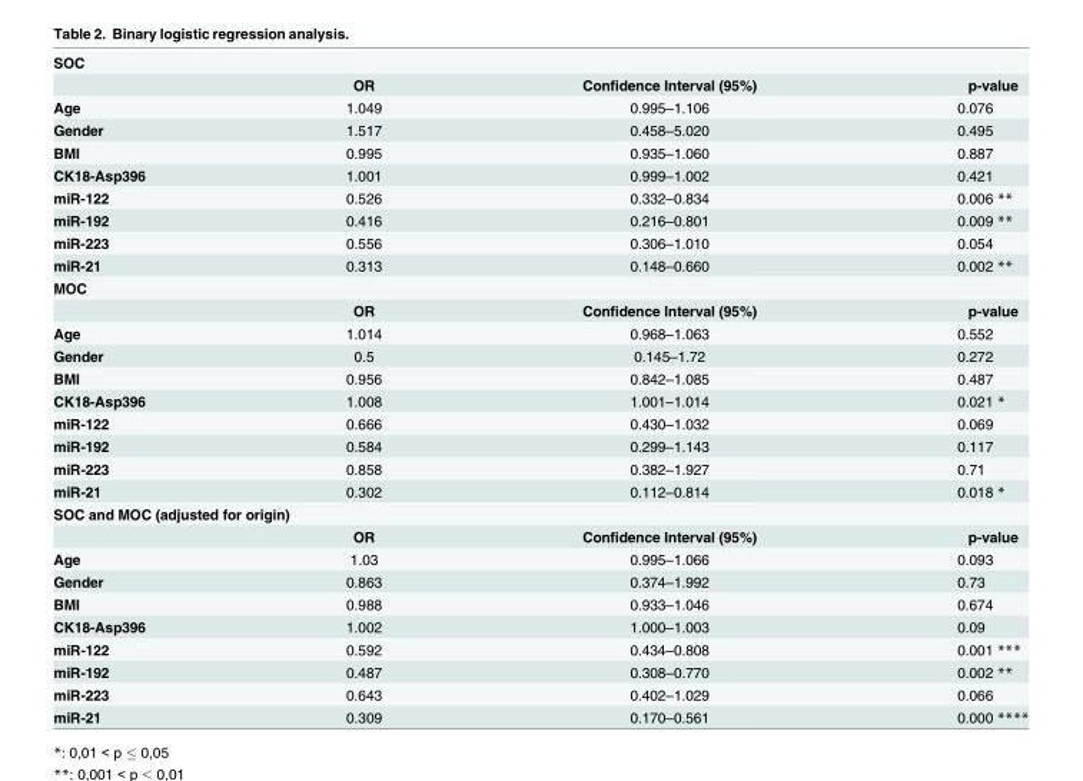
<table><tbody><tr><td colspan="4">SOC</td></tr><tr><td></td><td>OR</td><td>Confidence Interval (95%)</td><td>p-value</td></tr><tr><td>Age</td><td>1.049</td><td>0.995–1.106</td><td>0.076</td></tr><tr><td>Gender</td><td>1.517</td><td>0.458–5.020</td><td>0.495</td></tr><tr><td>BMI</td><td>0.995</td><td>0.935–1.060</td><td>0.887</td></tr><tr><td>CK18-Asp396</td><td>1.001</td><td>0.999–1.002</td><td>0.421</td></tr><tr><td>miR-122</td><td>0.526</td><td>0.332–0.834</td><td>0.006 **</td></tr><tr><td>miR-192</td><td>0.416</td><td>0.216–0.801</td><td>0.009 **</td></tr><tr><td>miR-223</td><td>0.556</td><td>0.306–1.010</td><td>0.054</td></tr><tr><td>miR-21</td><td>0.313</td><td>0.148–0.660</td><td>0.002 **</td></tr><tr><td colspan="4">MOC</td></tr><tr><td></td><td>OR</td><td>Confidence Interval (95%)</td><td>p-value</td></tr><tr><td>Age</td><td>1.014</td><td>0.968–1.063</td><td>0.552</td></tr><tr><td>Gender</td><td>0.5</td><td>0.145–1.72</td><td>0.272</td></tr><tr><td>BMI</td><td>0.956</td><td>0.842–1.085</td><td>0.487</td></tr><tr><td>CK18-Asp396</td><td>1.008</td><td>1.001–1.014</td><td>0.021 *</td></tr><tr><td>miR-122</td><td>0.666</td><td>0.430–1.032</td><td>0.069</td></tr><tr><td>miR-192</td><td>0.584</td><td>0.299–1.143</td><td>0.117</td></tr><tr><td>miR-223</td><td>0.858</td><td>0.382–1.927</td><td>0.71</td></tr><tr><td>miR-21</td><td>0.302</td><td>0.112–0.814</td><td>0.018 *</td></tr><tr><td colspan="4">SOC and MOC (adjusted for origin)</td></tr><tr><td></td><td>OR</td><td>Confidence Interval (95%)</td><td>p-value</td></tr><tr><td>Age</td><td>1.03</td><td>0.995–1.066</td><td>0.093</td></tr><tr><td>Gender</td><td>0.863</td><td>0.374–1.992</td><td>0.73</td></tr><tr><td>BMI</td><td>0.988</td><td>0.933–1.046</td><td>0.674</td></tr><tr><td>CK18-Asp396</td><td>1.002</td><td>1.000–1.003</td><td>0.09</td></tr><tr><td>miR-122</td><td>0.592</td><td>0.434–0.808</td><td>0.001 ***</td></tr><tr><td>miR-192</td><td>0.487</td><td>0.308–0.770</td><td>0.002 **</td></tr><tr><td>miR-223</td><td>0.643</td><td>0.402–1.029</td><td>0.066</td></tr><tr><td>miR-21</td><td>0.309</td><td>0.170–0.561</td><td>0.000 ****</td></tr></tbody></table>